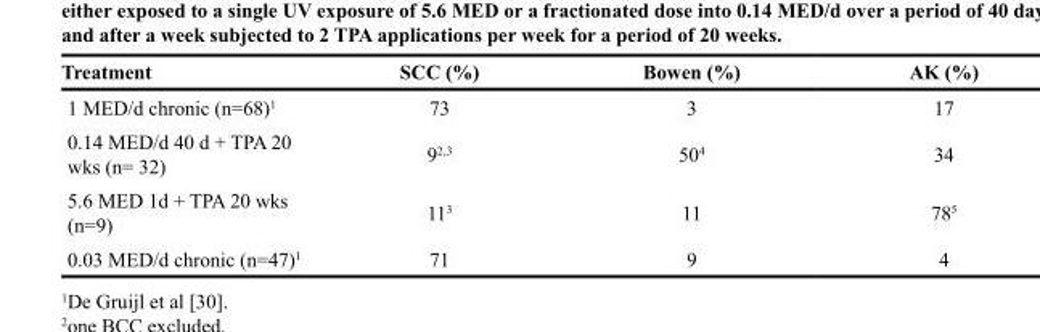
<table><thead><tr><td>Treatment</td><td>SCC (%)</td><td>Bowen (%)</td><td>AK (%)</td></tr></thead><tbody><tr><td>1 MED/d chronic (n=68)<sup>1</sup></td><td>73</td><td>3</td><td>17</td></tr><tr><td>0.14 MED/d 40 d + TPA 20 wks (n= 32)</td><td>9<sup>2</sup>,<sup>3</sup></td><td>50<sup>4</sup></td><td>34</td></tr><tr><td>5.6 MED 1d + TPA 20 wks (n=9)</td><td>11<sup>3</sup></td><td>11</td><td>78<sup>5</sup></td></tr><tr><td>0.03 MED/d chronic (n=47)<sup>1</sup></td><td>71</td><td>9</td><td>4</td></tr></tbody></table>